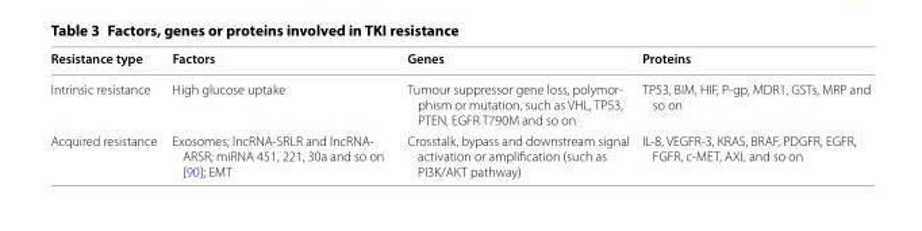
<table><thead><tr><td>Resistance type</td><td>Factors</td><td>Genes</td><td>Proteins</td></tr></thead><tbody><tr><td>Intrinsic resistance</td><td>High glucose uptake</td><td>Tumour suppressor gene loss, polymor- phism or mutation, such as VHL, TP53, PTEN, EGFR T790M and so on</td><td>TP53, BIM, HIF, P-gp, MDR1, GSTs, MRP and so on</td></tr><tr><td>Acquired resistance</td><td>Exosomes; lncRNA-SRLR and lncRNA- ARSR; miRNA 451, 221, 30a and so on [90]; EMT</td><td>Crosstalk, bypass and downstream signal activation or amplification (such as PI3K/AKT pathway)</td><td>IL-8, VEGFR-3, KRAS, BRAF, PDGFR, EGFR, FGFR, c-MET, AXL and so on</td></tr></tbody></table>